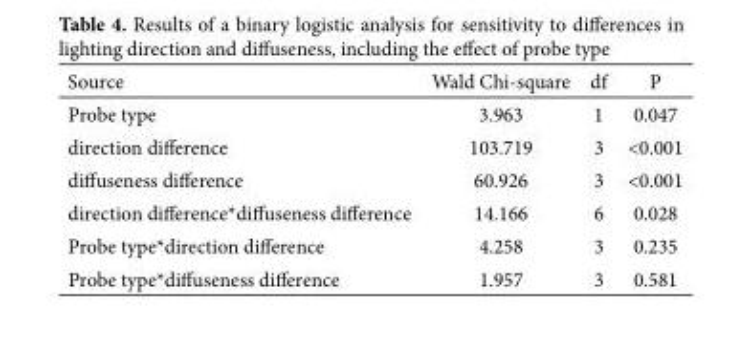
<table><thead><tr><td>Source</td><td>Wald Chi-square</td><td>df</td><td>P</td></tr></thead><tbody><tr><td>Probe type</td><td>3.963</td><td>1</td><td>0.047</td></tr><tr><td>direction difference</td><td>103.719</td><td>3</td><td>&lt;0.001</td></tr><tr><td>diffuseness difference</td><td>60.926</td><td>3</td><td>&lt;0.001</td></tr><tr><td>direction difference*diffuseness difference</td><td>14.166</td><td>6</td><td>0.028</td></tr><tr><td>Probe type*direction difference</td><td>4.258</td><td>3</td><td>0.235</td></tr><tr><td>Probe type*diffuseness difference</td><td>1.957</td><td>3</td><td>0.581</td></tr></tbody></table>